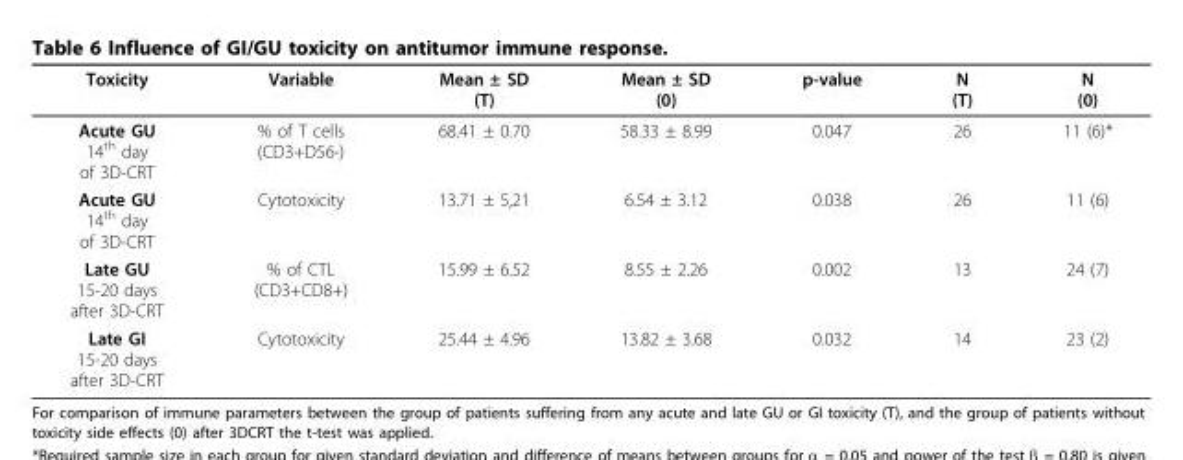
<table><thead><tr><td>Toxicity</td><td>Variable</td><td>Mean ± SD (T)</td><td>Mean ± SD (0)</td><td>p-value</td><td>N (T)</td><td>N (0)</td></tr></thead><tbody><tr><td>Acute GU 14<sup>th</sup> day of 3D-CRT</td><td>% of T cells (CD3+D56-)</td><td>68.41 ± 0.70</td><td>58.33 ± 8.99</td><td>0.047</td><td>26</td><td>11 (6)*</td></tr><tr><td>Acute GU 14<sup>th</sup> day of 3D-CRT</td><td>Cytotoxicity</td><td>13.71 ± 5,21</td><td>6.54 ± 3.12</td><td>0.038</td><td>26</td><td>11 (6)</td></tr><tr><td>Late GU 15-20 days after 3D-CRT</td><td>% of CTL (CD3+CD8+)</td><td>15.99 ± 6.52</td><td>8.55 ± 2.26</td><td>0.002</td><td>13</td><td>24 (7)</td></tr><tr><td>Late GI 15-20 days after 3D-CRT</td><td>Cytotoxicity</td><td>25.44 ± 4.96</td><td>13.82 ± 3.68</td><td>0.032</td><td>14</td><td>23 (2)</td></tr></tbody></table>